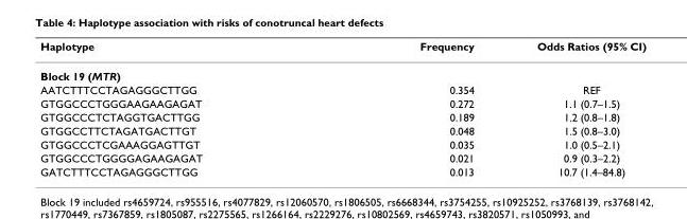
<table><thead><tr><td>Haplotype</td><td>Frequency</td><td>Odds Ratios (95% CI)</td></tr></thead><tbody><tr><td colspan="3">Block 19 (MTR)</td></tr><tr><td>AATCTTTCCTAGAGGGCTTGG</td><td>0.354</td><td>REF</td></tr><tr><td>GTGGCCCTGGGAAGAAGAGAT</td><td>0.272</td><td>1.1 (0.7–1.5)</td></tr><tr><td>GTGGCCCTCTAGGTGACTTGG</td><td>0.189</td><td>1.2 (0.8–1.8)</td></tr><tr><td>GTGGCCTTCTAGATGACTTGT</td><td>0.048</td><td>1.5 (0.8–3.0)</td></tr><tr><td>GTGGCCCTCGAAAGGAGTTGT</td><td>0.035</td><td>1.0 (0.5–2.1)</td></tr><tr><td>GTGGCCCTGGGGAGAAGAGAT</td><td>0.021</td><td>0.9 (0.3–2.2)</td></tr><tr><td>GATCTTTCCTAGAGGGCTTGG</td><td>0.013</td><td>10.7 (1.4–84.8)</td></tr></tbody></table>